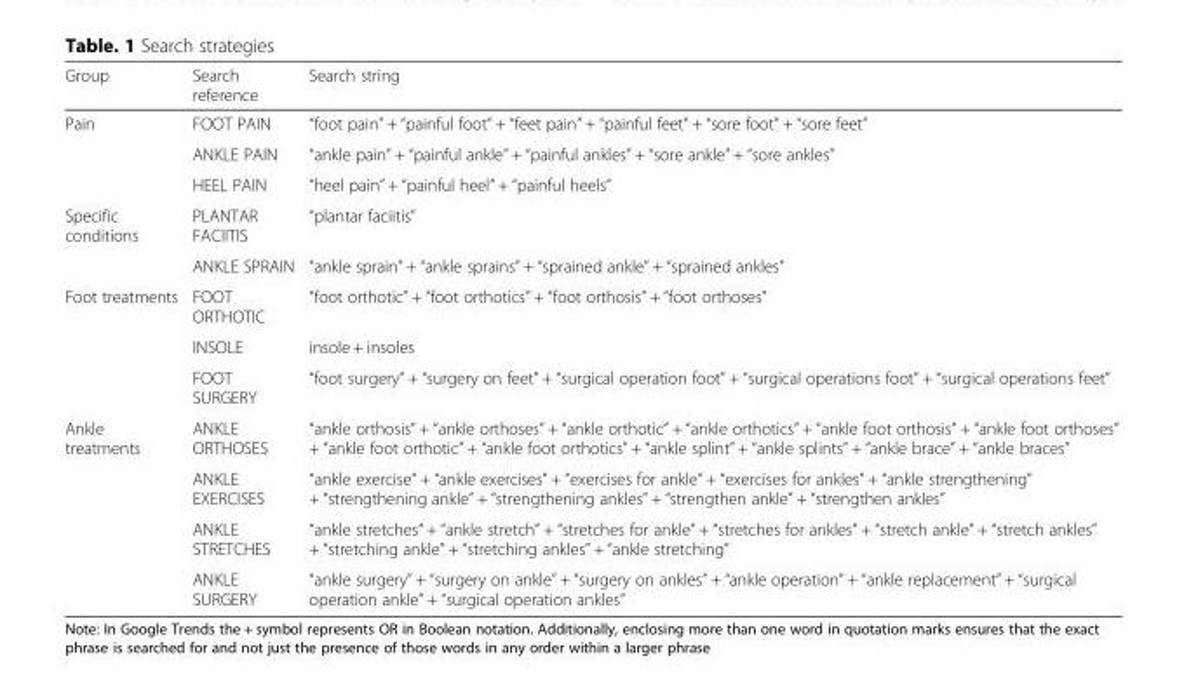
<table><thead><tr><td>Group</td><td>Search reference</td><td>Search string</td></tr></thead><tbody><tr><td rowspan="3">Pain</td><td>FOOT PAIN</td><td>“foot pain” + “painful foot” + “feet pain” + “painful feet” + “sore foot” + “sore feet”</td></tr><tr><td>ANKLE PAIN</td><td>“ankle pain” + “painful ankle” + “painful ankles” + “sore ankle” + “sore ankles”</td></tr><tr><td>HEEL PAIN</td><td>“heel pain” + “painful heel” + “painful heels”</td></tr><tr><td rowspan="2">Specific conditions</td><td>PLANTAR FACIITIS</td><td>“plantar faciitis”</td></tr><tr><td>ANKLE SPRAIN</td><td>“ankle sprain” + “ankle sprains” + “sprained ankle” + “sprained ankles”</td></tr><tr><td rowspan="3">Foot treatments</td><td>FOOT ORTHOTIC</td><td>“foot orthotic” + “foot orthotics” + “foot orthosis” + “foot orthoses”</td></tr><tr><td>INSOLE</td><td>insole + insoles</td></tr><tr><td>FOOT SURGERY</td><td>“foot surgery” + “surgery on feet” + “surgical operation foot” + “surgical operations foot” + “surgical operations feet”</td></tr><tr><td rowspan="4">Ankle treatments</td><td>ANKLE ORTHOSES</td><td>“ankle orthosis” + “ankle orthoses” + “ankle orthotic” + “ankle orthotics” + “ankle foot orthosis” + “ankle foot orthoses” + “ankle foot orthotic” + “ankle foot orthotics” + “ankle splint” + “ankle splints” + “ankle brace” + “ankle braces”</td></tr><tr><td>ANKLE EXERCISES</td><td>“ankle exercise” + “ankle exercises” + “exercises for ankle” + “exercises for ankles” + “ankle strengthening” + “strengthening ankle” + “strengthening ankles” + “strengthen ankle” + “strengthen ankles”</td></tr><tr><td>ANKLE STRETCHES</td><td>“ankle stretches” + “ankle stretch” + “stretches for ankle” + “stretches for ankles” + “stretch ankle” + “stretch ankles” + “stretching ankle” + “stretching ankles” + “ankle stretching”</td></tr><tr><td>ANKLE SURGERY</td><td>“ankle surgery” + “surgery on ankle” + “surgery on ankles” + “ankle operation” + “ankle replacement” + “surgical operation ankle” + “surgical operation ankles”</td></tr></tbody></table>